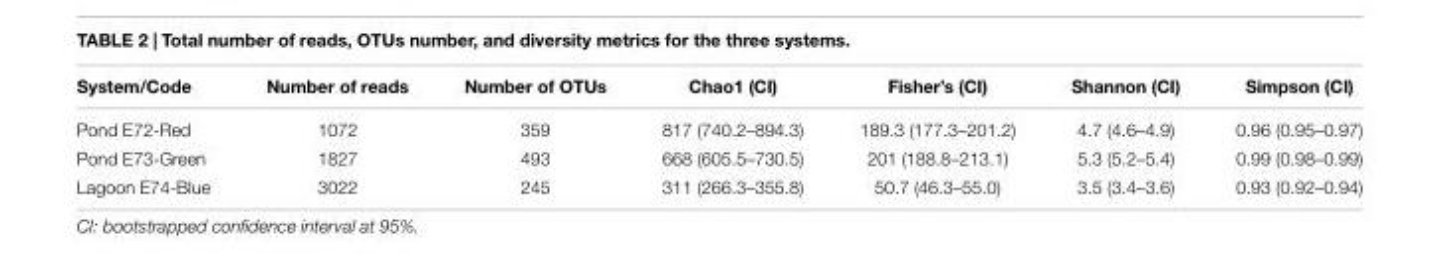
<table><thead><tr><td>System/Code</td><td>Number of reads</td><td>Number of OTUs</td><td>Chao1 (CI)</td><td>Fisher’s (CI)</td><td>Shannon (CI)</td><td>Simpson (CI)</td></tr></thead><tbody><tr><td>Pond E72-Red</td><td>1072</td><td>359</td><td>817 (740.2–894.3)</td><td>189.3 (177.3–201.2)</td><td>4.7 (4.6–4.9)</td><td>0.96 (0.95–0.97)</td></tr><tr><td>Pond E73-Green</td><td>1827</td><td>493</td><td>668 (605.5–730.5)</td><td>201 (188.8–213.1)</td><td>5.3 (5.2–5.4)</td><td>0.99 (0.98–0.99)</td></tr><tr><td>Lagoon E74-Blue</td><td>3022</td><td>245</td><td>311 (266.3–355.8)</td><td>50.7 (46.3–55.0)</td><td>3.5 (3.4–3.6)</td><td>0.93 (0.92–0.94)</td></tr></tbody></table>